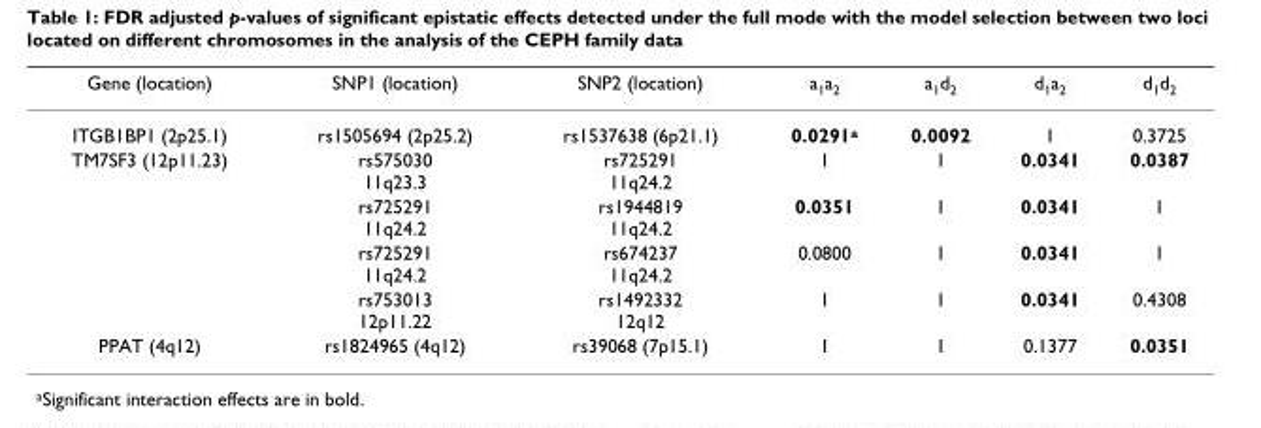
<table><thead><tr><td>Gene (location)</td><td>SNP1 (location)</td><td>SNP2 (location)</td><td>a<sub>1</sub>a<sub>2</sub></td><td>a<sub>1</sub>d<sub>2</sub></td><td>d<sub>1</sub>a<sub>2</sub></td><td>d<sub>1</sub>d<sub>2</sub></td></tr></thead><tbody><tr><td>ITGB1BP1 (2p25.1)</td><td>rs1505694 (2p25.2)</td><td>rs1537638 (6p21.1)</td><td>0.0291<sup>a</sup></td><td>0.0092</td><td>1</td><td>0.3725</td></tr><tr><td rowspan="4">TM7SF3 (12p11.23)</td><td>rs575030 11q23.3</td><td>rs725291 11q24.2</td><td>1</td><td>1</td><td>0.0341</td><td>0.0387</td></tr><tr><td>rs725291 11q24.2</td><td>rs1944819 11q24.2</td><td>0.0351</td><td>1</td><td>0.0341</td><td>1</td></tr><tr><td>rs725291 11q24.2</td><td>rs674237 11q24.2</td><td>0.0800</td><td>1</td><td>0.0341</td><td>1</td></tr><tr><td>rs753013 12p11.22</td><td>rs1492332 12q12</td><td>1</td><td>1</td><td>0.0341</td><td>0.4308</td></tr><tr><td>PPAT (4q12)</td><td>rs1824965 (4q12)</td><td>rs39068 (7p15.1)</td><td>1</td><td>1</td><td>0.1377</td><td>0.0351</td></tr></tbody></table>